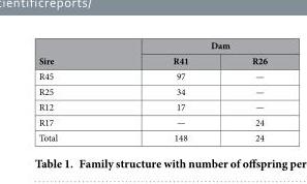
<table><thead><tr><td rowspan="2">Sire</td><td colspan="2">Dam</td></tr><tr><td>R41</td><td>R26</td></tr></thead><tbody><tr><td>R45</td><td>97</td><td>—</td></tr><tr><td>R25</td><td>34</td><td>—</td></tr><tr><td>R12</td><td>17</td><td>—</td></tr><tr><td>R17</td><td>—</td><td>24</td></tr><tr><td>Total</td><td>148</td><td>24</td></tr></tbody></table>